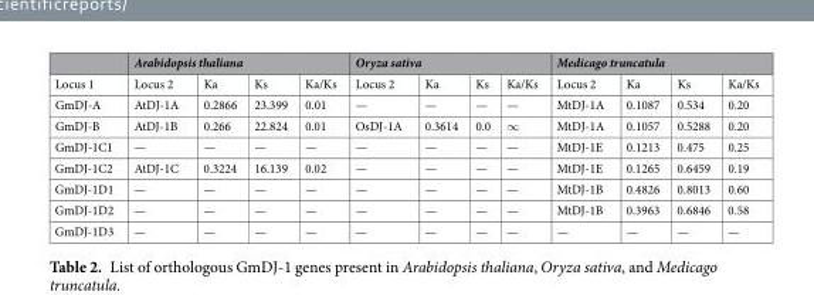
<table><thead><tr><td rowspan="2">Locus 1</td><td colspan="4">Arabidopsis thaliana</td><td colspan="4">Oryza sativa</td><td colspan="4">Medicago truncatula</td></tr><tr><td>Locus 2</td><td>Ka</td><td>Ks</td><td>Ka/Ks</td><td>Locus 2</td><td>Ka</td><td>Ks</td><td>Ka/Ks</td><td>Locus 2</td><td>Ka</td><td>Ks</td><td>Ka/Ks</td></tr></thead><tbody><tr><td>GmDJ-A</td><td>AtDJ-1A</td><td>0.2866</td><td>23.399</td><td>0.01</td><td>—</td><td>—</td><td>—</td><td>—</td><td>MtDJ-1A</td><td>0.1087</td><td>0.534</td><td>0.20</td></tr><tr><td>GmDJ-B</td><td>AtDJ-1B</td><td>0.266</td><td>22.824</td><td>0.01</td><td>OsDJ-1A</td><td>0.3614</td><td>0.0</td><td>∞</td><td>MtDJ-1A</td><td>0.1057</td><td>0.5288</td><td>0.20</td></tr><tr><td>GmDJ-1C1</td><td>—</td><td>—</td><td>—</td><td>—</td><td>—</td><td>—</td><td>—</td><td>—</td><td>MtDJ-1E</td><td>0.1213</td><td>0.475</td><td>0.25</td></tr><tr><td>GmDJ-1C2</td><td>AtDJ-1C</td><td>0.3224</td><td>16.139</td><td>0.02</td><td>—</td><td>—</td><td>—</td><td>—</td><td>MtDJ-1E</td><td>0.1265</td><td>0.6459</td><td>0.19</td></tr><tr><td>GmDJ-1D1</td><td>—</td><td>—</td><td>—</td><td>—</td><td>—</td><td>—</td><td>—</td><td>—</td><td>MtDJ-1B</td><td>0.4826</td><td>0.8013</td><td>0.60</td></tr><tr><td>GmDJ-1D2</td><td>—</td><td>—</td><td>—</td><td>—</td><td>—</td><td>—</td><td>—</td><td>—</td><td>MtDJ-1B</td><td>0.3963</td><td>0.6846</td><td>0.58</td></tr><tr><td>GmDJ-1D3</td><td>—</td><td>—</td><td>—</td><td>—</td><td>—</td><td>—</td><td>—</td><td>—</td><td>—</td><td>—</td><td>—</td><td>—</td></tr></tbody></table>